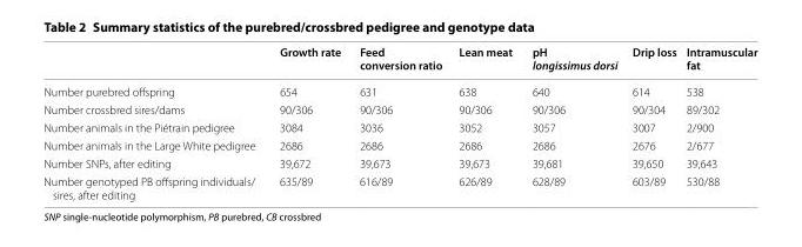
<table><thead><tr><td></td><td>Growth rate</td><td>Feed conversion ratio</td><td>Lean meat</td><td>pH longissimus dorsi</td><td>Drip loss</td><td>Intramuscular fat</td></tr></thead><tbody><tr><td>Number purebred offspring</td><td>654</td><td>631</td><td>638</td><td>640</td><td>614</td><td>538</td></tr><tr><td>Number crossbred sires/dams</td><td>90/306</td><td>90/306</td><td>90/306</td><td>90/306</td><td>90/304</td><td>89/302</td></tr><tr><td>Number animals in the Piétrain pedigree</td><td>3084</td><td>3036</td><td>3052</td><td>3057</td><td>3007</td><td>2/900</td></tr><tr><td>Number animals in the Large White pedigree</td><td>2686</td><td>2686</td><td>2686</td><td>2686</td><td>2676</td><td>2/677</td></tr><tr><td>Number SNPs, after editing</td><td>39,672</td><td>39,673</td><td>39,673</td><td>39,681</td><td>39,650</td><td>39,643</td></tr><tr><td>Number genotyped PB offspring individuals/ sires, after editing</td><td>635/89</td><td>616/89</td><td>626/89</td><td>628/89</td><td>603/89</td><td>530/88</td></tr></tbody></table>